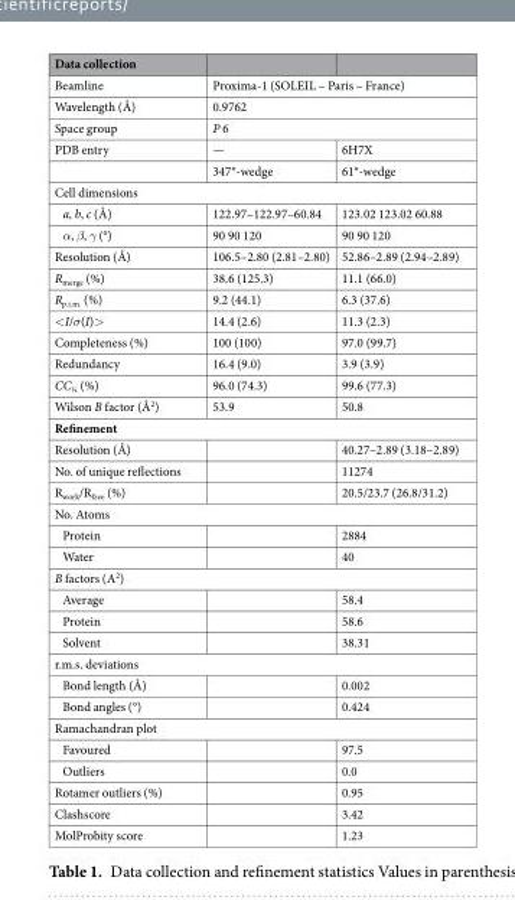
<table><thead><tr><td>Data collection</td><td></td><td></td></tr></thead><tbody><tr><td>Beamline</td><td colspan="2">Proxima-1 (SOLEIL – Paris – France)</td></tr><tr><td>Wavelength (Å)</td><td colspan="2">0.9762</td></tr><tr><td>Space group</td><td colspan="2">P 6</td></tr><tr><td rowspan="2">PDB entry</td><td>—</td><td>6H7X</td></tr><tr><td>347°-wedge</td><td>61°-wedge</td></tr><tr><td colspan="3">Cell dimensions</td></tr><tr><td>a, b, c (Å)</td><td>122.97–122.97–60.84</td><td>123.02 123.02 60.88</td></tr><tr><td>α, β, γ (°)</td><td>90 90 120</td><td>90 90 120</td></tr><tr><td>Resolution (Å)</td><td>106.5–2.80 (2.81–2.80)</td><td>52.86–2.89 (2.94–2.89)</td></tr><tr><td>R<sub>merge</sub> (%)</td><td>38.6 (125.3)</td><td>11.1 (66.0)</td></tr><tr><td>R<sub>p.i.m.</sub> (%)</td><td>9.2 (44.1)</td><td>6.3 (37.6)</td></tr><tr><td>&lt;I/σ(I)&gt;</td><td>14.4 (2.6)</td><td>11.3 (2.3)</td></tr><tr><td>Completeness (%)</td><td>100 (100)</td><td>97.0 (99.7)</td></tr><tr><td>Redundancy</td><td>16.4 (9.0)</td><td>3.9 (3.9)</td></tr><tr><td>CC<sub>½</sub> (%)</td><td>96.0 (74.3)</td><td>99.6 (77.3)</td></tr><tr><td>Wilson B factor (Å<sup>2</sup>)</td><td>53.9</td><td>50.8</td></tr><tr><td colspan="3">Refinement</td></tr><tr><td>Resolution (Å)</td><td></td><td>40.27–2.89 (3.18–2.89)</td></tr><tr><td>No. of unique reflections</td><td></td><td>11274</td></tr><tr><td>R<sub>work</sub>/R<sub>free</sub> (%)</td><td></td><td>20.5/23.7 (26.8/31.2)</td></tr><tr><td colspan="3">No. Atoms</td></tr><tr><td>Protein</td><td></td><td>2884</td></tr><tr><td>Water</td><td></td><td>40</td></tr><tr><td colspan="3">B factors (A<sup>2</sup>)</td></tr><tr><td>Average</td><td></td><td>58.4</td></tr><tr><td>Protein</td><td></td><td>58.6</td></tr><tr><td>Solvent</td><td></td><td>38.31</td></tr><tr><td colspan="3">r.m.s. deviations</td></tr><tr><td>Bond length (Å)</td><td></td><td>0.002</td></tr><tr><td>Bond angles (°)</td><td></td><td>0.424</td></tr><tr><td colspan="3">Ramachandran plot</td></tr><tr><td>Favoured</td><td></td><td>97.5</td></tr><tr><td>Outliers</td><td></td><td>0.0</td></tr><tr><td>Rotamer outliers (%)</td><td></td><td>0.95</td></tr><tr><td>Clashscore</td><td></td><td>3.42</td></tr><tr><td>MolProbity score</td><td></td><td>1.23</td></tr></tbody></table>